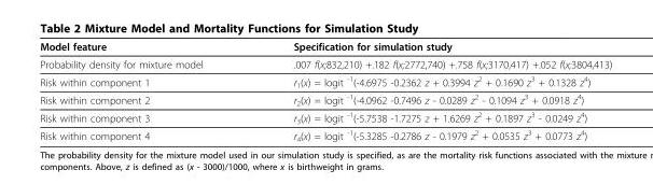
<table><thead><tr><td>Model feature</td><td>Specification for simulation study</td></tr></thead><tbody><tr><td>Probability density for mixture model</td><td>.007 f(x;832,210) +.182 f(x;2772,740) +.758 f(x;3170,417) +.052 f(x;3804,413)</td></tr><tr><td>Risk within component 1</td><td>r<sub>1</sub>(x) = logit <sup>-1</sup>(-4.6975 -0.2362 z + 0.3994 z<sup>2</sup> + 0.1690 z<sup>3</sup> + 0.1328 z<sup>4</sup>)</td></tr><tr><td>Risk within component 2</td><td>r<sub>2</sub>(x) = logit <sup>-1</sup>(-4.0962 -0.7496 z - 0.0289 z<sup>2</sup> - 0.1094 z<sup>3</sup> + 0.0918 z<sup>4</sup>)</td></tr><tr><td>Risk within component 3</td><td>r<sub>3</sub>(x) = logit <sup>-1</sup>(-5.7538 -1.7275 z + 1.6269 z<sup>2</sup> + 0.1897 z<sup>3</sup> - 0.0249 z<sup>4</sup>)</td></tr><tr><td>Risk within component 4</td><td>r<sub>4</sub>(x) = logit <sup>-1</sup>(-5.3285 -0.2786 z - 0.1979 z<sup>2</sup> + 0.0535 z<sup>3</sup> + 0.0773 z<sup>4</sup>)</td></tr></tbody></table>